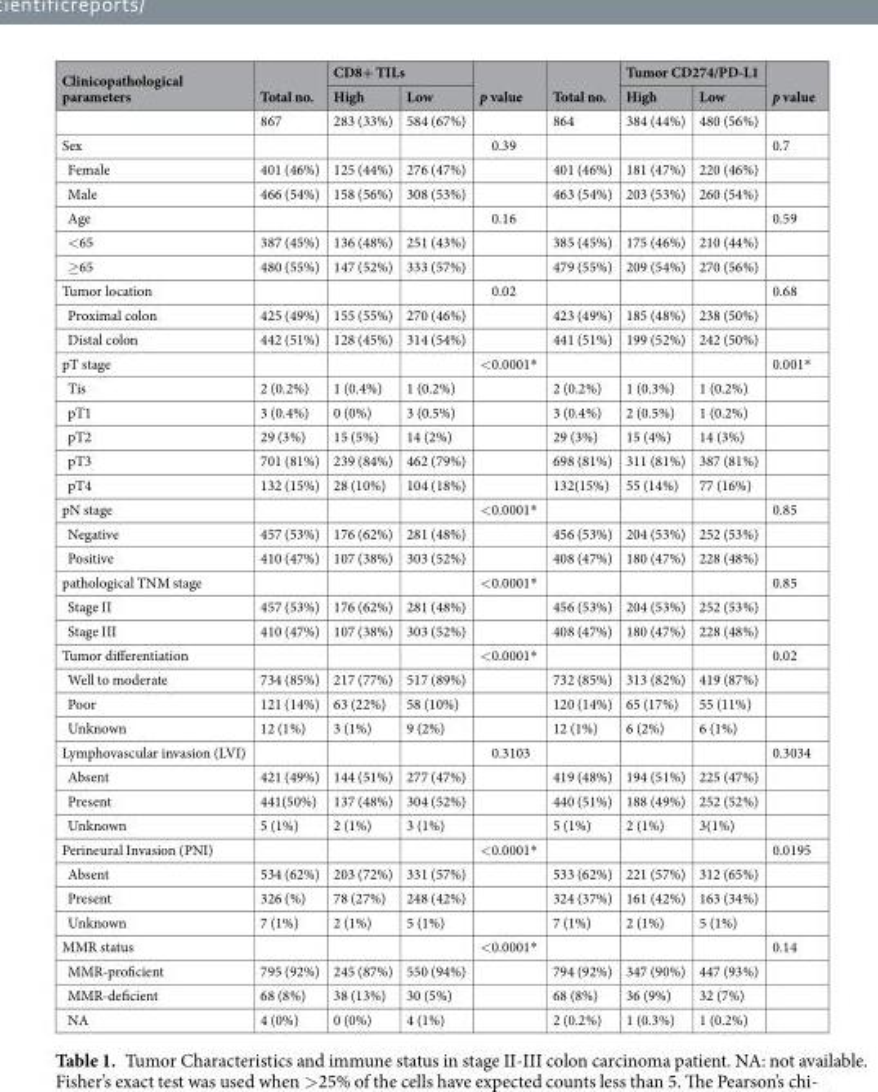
<table><thead><tr><td rowspan="2">Clinicopathological parameters</td><td rowspan="2">Total no.</td><td colspan="2">CD8+ TILs</td><td rowspan="2">p value</td><td rowspan="2">Total no.</td><td colspan="2">Tumor CD274/PD-L1</td><td rowspan="2">p value</td></tr><tr><td>High</td><td>Low</td><td>High</td><td>Low</td></tr></thead><tbody><tr><td></td><td>867</td><td>283 (33%)</td><td>584 (67%)</td><td></td><td>864</td><td>384 (44%)</td><td>480 (56%)</td><td></td></tr><tr><td>Sex</td><td></td><td></td><td></td><td>0.39</td><td></td><td></td><td></td><td>0.7</td></tr><tr><td>Female</td><td>401 (46%)</td><td>125 (44%)</td><td>276 (47%)</td><td></td><td>401 (46%)</td><td>181 (47%)</td><td>220 (46%)</td><td></td></tr><tr><td>Male</td><td>466 (54%)</td><td>158 (56%)</td><td>308 (53%)</td><td></td><td>463 (54%)</td><td>203 (53%)</td><td>260 (54%)</td><td></td></tr><tr><td>Age</td><td></td><td></td><td></td><td>0.16</td><td></td><td></td><td></td><td>0.59</td></tr><tr><td>&lt;65</td><td>387 (45%)</td><td>136 (48%)</td><td>251 (43%)</td><td></td><td>385 (45%)</td><td>175 (46%)</td><td>210 (44%)</td><td></td></tr><tr><td>≥65</td><td>480 (55%)</td><td>147 (52%)</td><td>333 (57%)</td><td></td><td>479 (55%)</td><td>209 (54%)</td><td>270 (56%)</td><td></td></tr><tr><td>Tumor location</td><td></td><td></td><td></td><td>0.02</td><td></td><td></td><td></td><td>0.68</td></tr><tr><td>Proximal colon</td><td>425 (49%)</td><td>155 (55%)</td><td>270 (46%)</td><td></td><td>423 (49%)</td><td>185 (48%)</td><td>238 (50%)</td><td></td></tr><tr><td>Distal colon</td><td>442 (51%)</td><td>128 (45%)</td><td>314 (54%)</td><td></td><td>441 (51%)</td><td>199 (52%)</td><td>242 (50%)</td><td></td></tr><tr><td>pT stage</td><td></td><td></td><td></td><td>&lt;0.0001*</td><td></td><td></td><td></td><td>0.001*</td></tr><tr><td>Tis</td><td>2 (0.2%)</td><td>1 (0.4%)</td><td>1 (0.2%)</td><td></td><td>2 (0.2%)</td><td>1 (0.3%)</td><td>1 (0.2%)</td><td></td></tr><tr><td>pT1</td><td>3 (0.4%)</td><td>0 (0%)</td><td>3 (0.5%)</td><td></td><td>3 (0.4%)</td><td>2 (0.5%)</td><td>1 (0.2%)</td><td></td></tr><tr><td>pT2</td><td>29 (3%)</td><td>15 (5%)</td><td>14 (2%)</td><td></td><td>29 (3%)</td><td>15 (4%)</td><td>14 (3%)</td><td></td></tr><tr><td>pT3</td><td>701 (81%)</td><td>239 (84%)</td><td>462 (79%)</td><td></td><td>698 (81%)</td><td>311 (81%)</td><td>387 (81%)</td><td></td></tr><tr><td>pT4</td><td>132 (15%)</td><td>28 (10%)</td><td>104 (18%)</td><td></td><td>132(15%)</td><td>55 (14%)</td><td>77 (16%)</td><td></td></tr><tr><td>pN stage</td><td></td><td></td><td></td><td>&lt;0.0001*</td><td></td><td></td><td></td><td>0.85</td></tr><tr><td>Negative</td><td>457 (53%)</td><td>176 (62%)</td><td>281 (48%)</td><td></td><td>456 (53%)</td><td>204 (53%)</td><td>252 (53%)</td><td></td></tr><tr><td>Positive</td><td>410 (47%)</td><td>107 (38%)</td><td>303 (52%)</td><td></td><td>408 (47%)</td><td>180 (47%)</td><td>228 (48%)</td><td></td></tr><tr><td>pathological TNM stage</td><td></td><td></td><td></td><td>&lt;0.0001*</td><td></td><td></td><td></td><td>0.85</td></tr><tr><td>Stage II</td><td>457 (53%)</td><td>176 (62%)</td><td>281 (48%)</td><td></td><td>456 (53%)</td><td>204 (53%)</td><td>252 (53%)</td><td></td></tr><tr><td>Stage III</td><td>410 (47%)</td><td>107 (38%)</td><td>303 (52%)</td><td></td><td>408 (47%)</td><td>180 (47%)</td><td>228 (48%)</td><td></td></tr><tr><td>Tumor differentiation</td><td></td><td></td><td></td><td>&lt;0.0001*</td><td></td><td></td><td></td><td>0.02</td></tr><tr><td>Well to moderate</td><td>734 (85%)</td><td>217 (77%)</td><td>517 (89%)</td><td></td><td>732 (85%)</td><td>313 (82%)</td><td>419 (87%)</td><td></td></tr><tr><td>Poor</td><td>121 (14%)</td><td>63 (22%)</td><td>58 (10%)</td><td></td><td>120 (14%)</td><td>65 (17%)</td><td>55 (11%)</td><td></td></tr><tr><td>Unknown</td><td>12 (1%)</td><td>3 (1%)</td><td>9 (2%)</td><td></td><td>12 (1%)</td><td>6 (2%)</td><td>6 (1%)</td><td></td></tr><tr><td>Lymphovascular invasion (LVI)</td><td></td><td></td><td></td><td>0.3103</td><td></td><td></td><td></td><td>0.3034</td></tr><tr><td>Absent</td><td>421 (49%)</td><td>144 (51%)</td><td>277 (47%)</td><td></td><td>419 (48%)</td><td>194 (51%)</td><td>225 (47%)</td><td></td></tr><tr><td>Present</td><td>441(50%)</td><td>137 (48%)</td><td>304 (52%)</td><td></td><td>440 (51%)</td><td>188 (49%)</td><td>252 (52%)</td><td></td></tr><tr><td>Unknown</td><td>5 (1%)</td><td>2 (1%)</td><td>3 (1%)</td><td></td><td>5 (1%)</td><td>2 (1%)</td><td>3(1%)</td><td></td></tr><tr><td>Perineural Invasion (PNI)</td><td></td><td></td><td></td><td>&lt;0.0001*</td><td></td><td></td><td></td><td>0.0195</td></tr><tr><td>Absent</td><td>534 (62%)</td><td>203 (72%)</td><td>331 (57%)</td><td></td><td>533 (62%)</td><td>221 (57%)</td><td>312 (65%)</td><td></td></tr><tr><td>Present</td><td>326 (%)</td><td>78 (27%)</td><td>248 (42%)</td><td></td><td>324 (37%)</td><td>161 (42%)</td><td>163 (34%)</td><td></td></tr><tr><td>Unknown</td><td>7 (1%)</td><td>2 (1%)</td><td>5 (1%)</td><td></td><td>7 (1%)</td><td>2 (1%)</td><td>5 (1%)</td><td></td></tr><tr><td>MMR status</td><td></td><td></td><td></td><td>&lt;0.0001*</td><td></td><td></td><td></td><td>0.14</td></tr><tr><td>MMR-proficient</td><td>795 (92%)</td><td>245 (87%)</td><td>550 (94%)</td><td></td><td>794 (92%)</td><td>347 (90%)</td><td>447 (93%)</td><td></td></tr><tr><td>MMR-deficient</td><td>68 (8%)</td><td>38 (13%)</td><td>30 (5%)</td><td></td><td>68 (8%)</td><td>36 (9%)</td><td>32 (7%)</td><td></td></tr><tr><td>NA</td><td>4 (0%)</td><td>0 (0%)</td><td>4 (1%)</td><td></td><td>2 (0.2%)</td><td>1 (0.3%)</td><td>1 (0.2%)</td><td></td></tr></tbody></table>